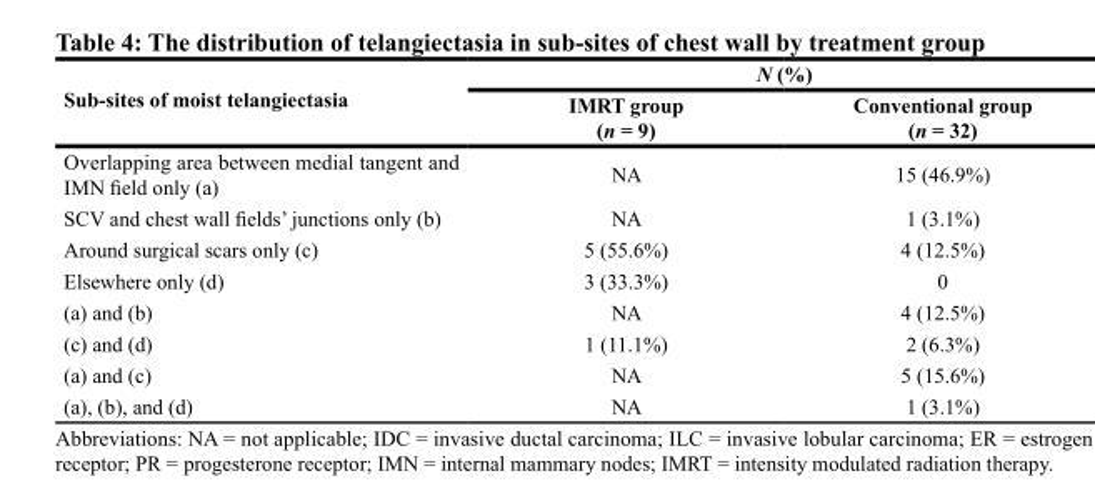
<table><thead><tr><td rowspan="2">Sub-sites of moist telangiectasia</td><td colspan="2">N (%)</td></tr><tr><td>IMRT group (n = 9)</td><td>Conventional group (n = 32)</td></tr></thead><tbody><tr><td>Overlapping area between medial tangent and IMN field only (a)</td><td>NA</td><td>15 (46.9%)</td></tr><tr><td>SCV and chest wall fields’ junctions only (b)</td><td>NA</td><td>1 (3.1%)</td></tr><tr><td>Around surgical scars only (c)</td><td>5 (55.6%)</td><td>4 (12.5%)</td></tr><tr><td>Elsewhere only (d)</td><td>3 (33.3%)</td><td>0</td></tr><tr><td>(a) and (b)</td><td>NA</td><td>4 (12.5%)</td></tr><tr><td>(c) and (d)</td><td>1 (11.1%)</td><td>2 (6.3%)</td></tr><tr><td>(a) and (c)</td><td>NA</td><td>5 (15.6%)</td></tr><tr><td>(a), (b), and (d)</td><td>NA</td><td>1 (3.1%)</td></tr></tbody></table>